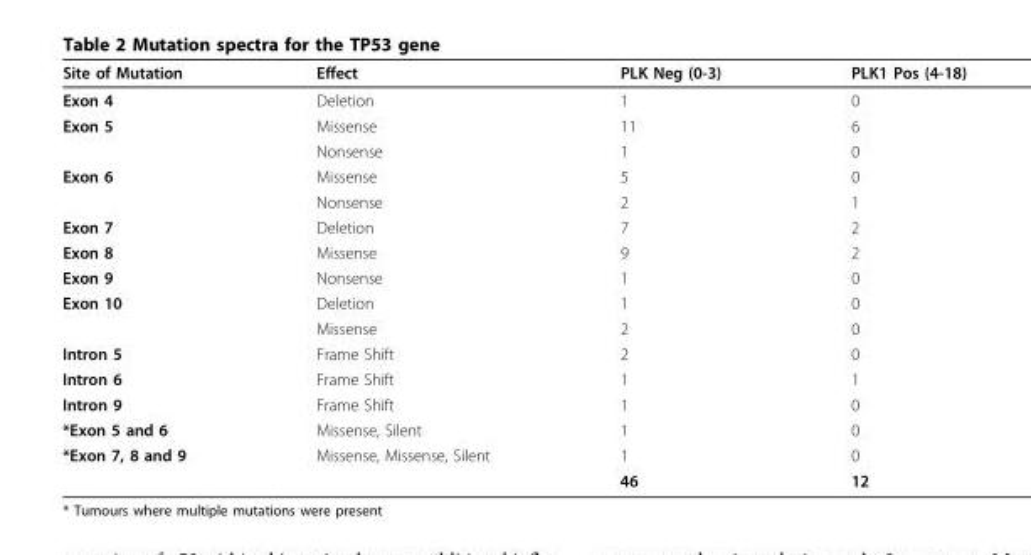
<table><thead><tr><td>Site of Mutation</td><td>Effect</td><td>PLK Neg (0-3)</td><td>PLK1 Pos (4-18)</td></tr></thead><tbody><tr><td>Exon 4</td><td>Deletion</td><td>1</td><td>0</td></tr><tr><td rowspan="2">Exon 5</td><td>Missense</td><td>11</td><td>6</td></tr><tr><td>Nonsense</td><td>1</td><td>0</td></tr><tr><td rowspan="2">Exon 6</td><td>Missense</td><td>5</td><td>0</td></tr><tr><td>Nonsense</td><td>2</td><td>1</td></tr><tr><td>Exon 7</td><td>Deletion</td><td>7</td><td>2</td></tr><tr><td>Exon 8</td><td>Missense</td><td>9</td><td>2</td></tr><tr><td>Exon 9</td><td>Nonsense</td><td>1</td><td>0</td></tr><tr><td rowspan="2">Exon 10</td><td>Deletion</td><td>1</td><td>0</td></tr><tr><td>Missense</td><td>2</td><td>0</td></tr><tr><td>Intron 5</td><td>Frame Shift</td><td>2</td><td>0</td></tr><tr><td>Intron 6</td><td>Frame Shift</td><td>1</td><td>1</td></tr><tr><td>Intron 9</td><td>Frame Shift</td><td>1</td><td>0</td></tr><tr><td>*Exon 5 and 6</td><td>Missense, Silent</td><td>1</td><td>0</td></tr><tr><td rowspan="2">*Exon 7, 8 and 9</td><td>Missense, Missense, Silent</td><td>1</td><td>0</td></tr><tr><td></td><td>46</td><td>12</td></tr></tbody></table>